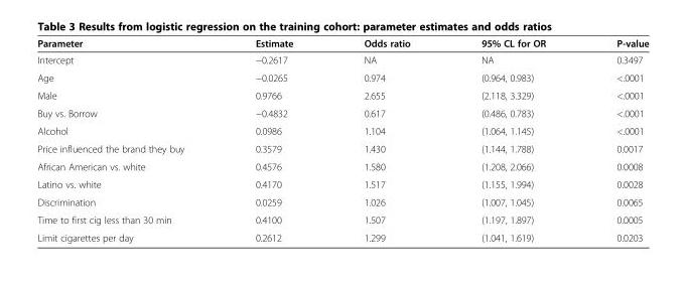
<table><thead><tr><td>Parameter</td><td>Estimate</td><td>Odds ratio</td><td>95% CL for OR</td><td>P-value</td></tr></thead><tbody><tr><td>Intercept</td><td>−0.2617</td><td>NA</td><td>NA</td><td>0.3497</td></tr><tr><td>Age</td><td>−0.0265</td><td>0.974</td><td>(0.964, 0.983)</td><td>&lt;.0001</td></tr><tr><td>Male</td><td>0.9766</td><td>2.655</td><td>(2.118, 3.329)</td><td>&lt;.0001</td></tr><tr><td>Buy vs. Borrow</td><td>−0.4832</td><td>0.617</td><td>(0.486, 0.783)</td><td>&lt;.0001</td></tr><tr><td>Alcohol</td><td>0.0986</td><td>1.104</td><td>(1.064, 1.145)</td><td>&lt;.0001</td></tr><tr><td>Price influenced the brand they buy</td><td>0.3579</td><td>1.430</td><td>(1.144, 1.788)</td><td>0.0017</td></tr><tr><td>African American vs. white</td><td>0.4576</td><td>1.580</td><td>(1.208, 2.066)</td><td>0.0008</td></tr><tr><td>Latino vs. white</td><td>0.4170</td><td>1.517</td><td>(1.155, 1.994)</td><td>0.0028</td></tr><tr><td>Discrimination</td><td>0.0259</td><td>1.026</td><td>(1.007, 1.045)</td><td>0.0065</td></tr><tr><td>Time to first cig less than 30 min</td><td>0.4100</td><td>1.507</td><td>(1.197, 1.897)</td><td>0.0005</td></tr><tr><td>Limit cigarettes per day</td><td>0.2612</td><td>1.299</td><td>(1.041, 1.619)</td><td>0.0203</td></tr></tbody></table>